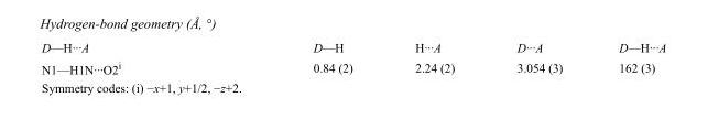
<table><tbody><tr><td>D—H···A</td><td>D—H</td><td>H···A</td><td>D···A</td><td>D—H···A</td></tr><tr><td>N1—H1N···O2<sup>i</sup></td><td>0.84 (2)</td><td>2.24 (2)</td><td>3.054 (3)</td><td>162 (3)</td></tr></tbody></table>